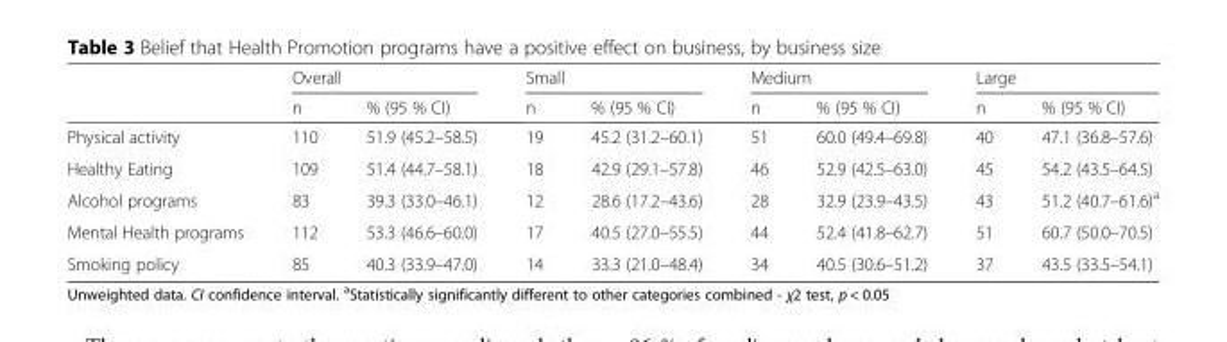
<table><thead><tr><td rowspan="2"></td><td colspan="2">Overall</td><td colspan="2">Small</td><td colspan="2">Medium</td><td colspan="2">Large</td></tr><tr><td>n</td><td>% (95 % CI)</td><td>n</td><td>% (95 % CI)</td><td>n</td><td>% (95 % CI)</td><td>n</td><td>% (95 % CI)</td></tr></thead><tbody><tr><td>Physical activity</td><td>110</td><td>51.9 (45.2–58.5)</td><td>19</td><td>45.2 (31.2–60.1)</td><td>51</td><td>60.0 (49.4–69.8)</td><td>40</td><td>47.1 (36.8–57.6)</td></tr><tr><td>Healthy Eating</td><td>109</td><td>51.4 (44.7–58.1)</td><td>18</td><td>42.9 (29.1–57.8)</td><td>46</td><td>52.9 (42.5–63.0)</td><td>45</td><td>54.2 (43.5–64.5)</td></tr><tr><td>Alcohol programs</td><td>83</td><td>39.3 (33.0–46.1)</td><td>12</td><td>28.6 (17.2–43.6)</td><td>28</td><td>32.9 (23.9–43.5)</td><td>43</td><td>51.2 (40.7–61.6)<sup>a</sup></td></tr><tr><td>Mental Health programs</td><td>112</td><td>53.3 (46.6–60.0)</td><td>17</td><td>40.5 (27.0–55.5)</td><td>44</td><td>52.4 (41.8–62.7)</td><td>51</td><td>60.7 (50.0–70.5)</td></tr><tr><td>Smoking policy</td><td>85</td><td>40.3 (33.9–47.0)</td><td>14</td><td>33.3 (21.0–48.4)</td><td>34</td><td>40.5 (30.6–51.2)</td><td>37</td><td>43.5 (33.5–54.1)</td></tr></tbody></table>